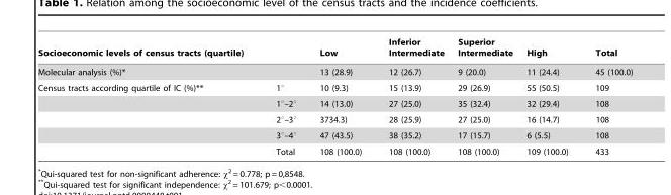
<table><thead><tr><td rowspan="2" colspan="2">Socioeconomic levels of census tracts (quartile) Molecular analysis (%)*</td><td rowspan="3">Low 13 (28.9) 10 (9.3)</td><td rowspan="3">Inferior Intermediate 12 (26.7) 15 (13.9)</td><td rowspan="3">Superior Intermediate 9 (20.0) 29 (26.9)</td><td rowspan="3">High 11 (24.4) 55 (50.5)</td><td rowspan="3">Total 45 (100.0) 109</td></tr><tr></tr><tr><td>Census tracts according quartile of IC (%)**</td><td>1°</td></tr></thead><tbody><tr><td></td><td>1°–2°</td><td>14 (13.0)</td><td>27 (25.0)</td><td>35 (32.4)</td><td>32 (29.4)</td><td>108</td></tr><tr><td></td><td>2°–3°</td><td>3734.3)</td><td>28 (25.9)</td><td>27 (25.0)</td><td>16 (14.7)</td><td>108</td></tr><tr><td></td><td>3°–4°</td><td>47 (43.5)</td><td>38 (35.2)</td><td>17 (15.7)</td><td>6 (5.5)</td><td>108</td></tr><tr><td></td><td>Total</td><td>108 (100.0)</td><td>108 (100.0)</td><td>108 (100.0)</td><td>109 (100.0)</td><td>433</td></tr></tbody></table>